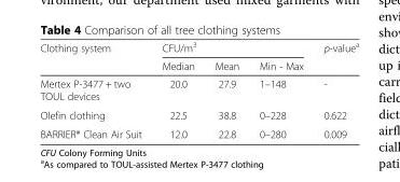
<table><thead><tr><td rowspan="2">Clothing system</td><td colspan="3">CFU/m<sup>3</sup></td><td rowspan="2">p-value<sup>a</sup></td></tr><tr><td>Median</td><td>Mean</td><td>Min - Max</td></tr></thead><tbody><tr><td>Mertex P-3477 + two TOUL devices</td><td>20.0</td><td>27.9</td><td>1–148</td><td>-</td></tr><tr><td>Olefin clothing</td><td>22.5</td><td>38.8</td><td>0–228</td><td>0.622</td></tr><tr><td>BARRIER® Clean Air Suit</td><td>12.0</td><td>22.8</td><td>0–280</td><td>0.009</td></tr></tbody></table>